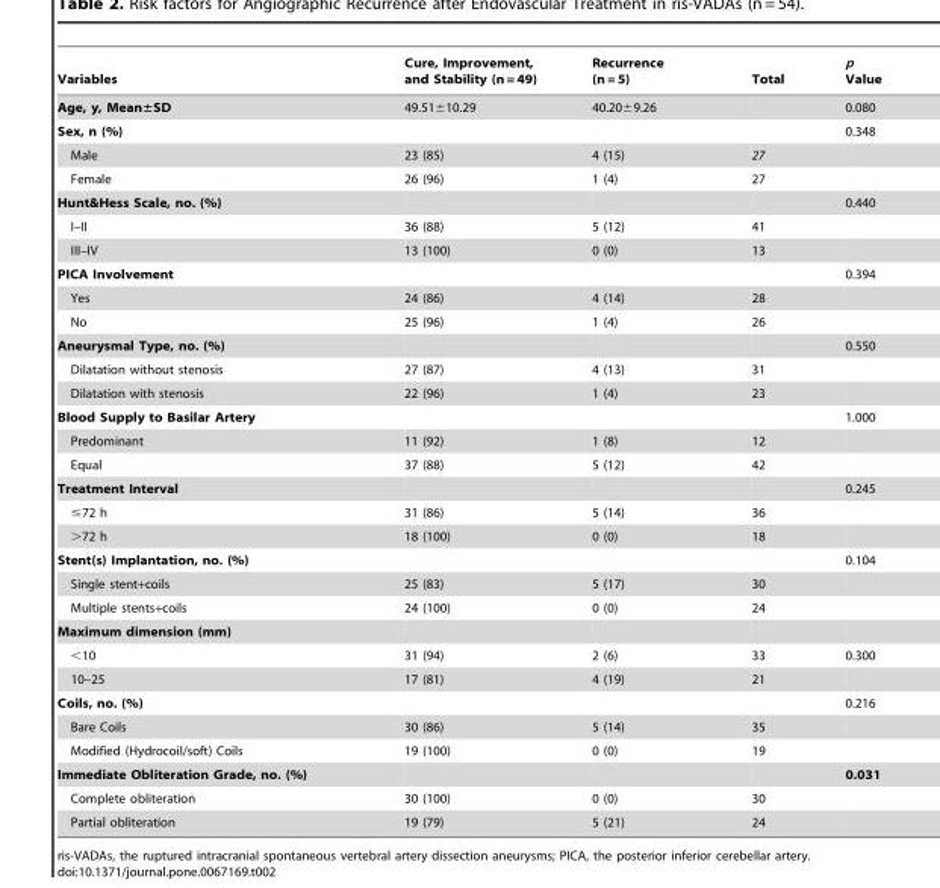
<table><thead><tr><td>Variables</td><td>Cure, Improvement, and Stability (n = 49)</td><td>Recurrence (n = 5)</td><td>Total</td><td>p Value</td></tr></thead><tbody><tr><td>Age, y, Mean±SD</td><td>49.51±10.29</td><td>40.20±9.26</td><td></td><td>0.080</td></tr><tr><td>Sex, n (%)</td><td></td><td></td><td></td><td>0.348</td></tr><tr><td>Male</td><td>23 (85)</td><td>4 (15)</td><td>27</td><td></td></tr><tr><td>Female</td><td>26 (96)</td><td>1 (4)</td><td>27</td><td></td></tr><tr><td>Hunt&amp;Hess Scale, no. (%)</td><td></td><td></td><td></td><td>0.440</td></tr><tr><td>I–II</td><td>36 (88)</td><td>5 (12)</td><td>41</td><td></td></tr><tr><td>III–IV</td><td>13 (100)</td><td>0 (0)</td><td>13</td><td></td></tr><tr><td>PICA Involvement</td><td></td><td></td><td></td><td>0.394</td></tr><tr><td>Yes</td><td>24 (86)</td><td>4 (14)</td><td>28</td><td></td></tr><tr><td>No</td><td>25 (96)</td><td>1 (4)</td><td>26</td><td></td></tr><tr><td>Aneurysmal Type, no. (%)</td><td></td><td></td><td></td><td>0.550</td></tr><tr><td>Dilatation without stenosis</td><td>27 (87)</td><td>4 (13)</td><td>31</td><td></td></tr><tr><td>Dilatation with stenosis</td><td>22 (96)</td><td>1 (4)</td><td>23</td><td></td></tr><tr><td>Blood Supply to Basilar Artery</td><td></td><td></td><td></td><td>1.000</td></tr><tr><td>Predominant</td><td>11 (92)</td><td>1 (8)</td><td>12</td><td></td></tr><tr><td>Equal</td><td>37 (88)</td><td>5 (12)</td><td>42</td><td></td></tr><tr><td>Treatment Interval</td><td></td><td></td><td></td><td>0.245</td></tr><tr><td>≤72 h</td><td>31 (86)</td><td>5 (14)</td><td>36</td><td></td></tr><tr><td>&gt;72 h</td><td>18 (100)</td><td>0 (0)</td><td>18</td><td></td></tr><tr><td>Stent(s) Implantation, no. (%)</td><td></td><td></td><td></td><td>0.104</td></tr><tr><td>Single stent+coils</td><td>25 (83)</td><td>5 (17)</td><td>30</td><td></td></tr><tr><td>Multiple stents+coils</td><td>24 (100)</td><td>0 (0)</td><td>24</td><td></td></tr><tr><td colspan="5">Maximum dimension (mm)</td></tr><tr><td>&lt;10</td><td>31 (94)</td><td>2 (6)</td><td>33</td><td>0.300</td></tr><tr><td>10–25</td><td>17 (81)</td><td>4 (19)</td><td>21</td><td></td></tr><tr><td>Coils, no. (%)</td><td></td><td></td><td></td><td>0.216</td></tr><tr><td>Bare Coils</td><td>30 (86)</td><td>5 (14)</td><td>35</td><td></td></tr><tr><td>Modified (Hydrocoil/soft) Coils</td><td>19 (100)</td><td>0 (0)</td><td>19</td><td></td></tr><tr><td>Immediate Obliteration Grade, no. (%)</td><td></td><td></td><td></td><td>0.031</td></tr><tr><td>Complete obliteration</td><td>30 (100)</td><td>0 (0)</td><td>30</td><td></td></tr><tr><td>Partial obliteration</td><td>19 (79)</td><td>5 (21)</td><td>24</td><td></td></tr></tbody></table>